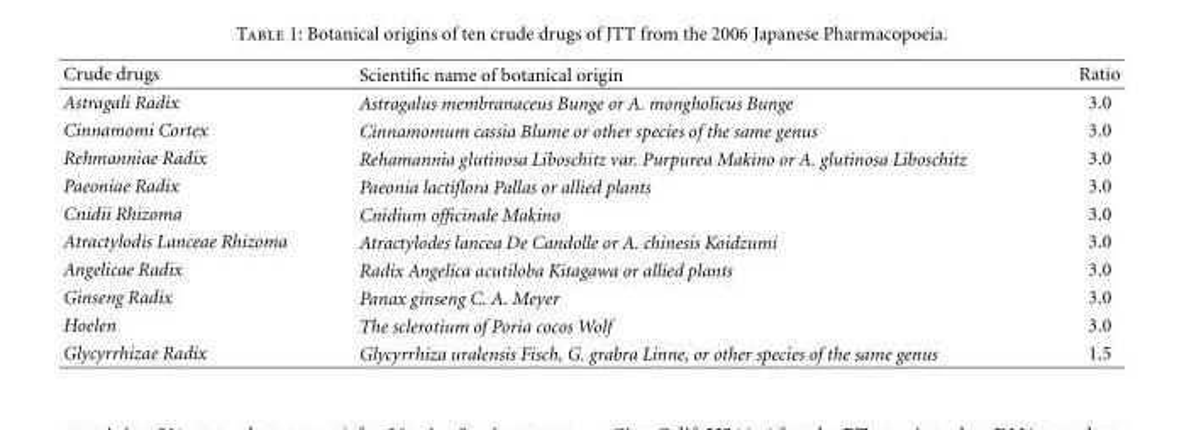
<table><thead><tr><td>Crude drugs</td><td>Scientific name of botanical origin</td><td>Ratio</td></tr></thead><tbody><tr><td>Astragali Radix</td><td>Astragalus membranaceus Bunge or A. mongholicus Bunge</td><td>3.0</td></tr><tr><td>Cinnamomi Cortex</td><td>Cinnamomum cassia Blume or other species of the same genus</td><td>3.0</td></tr><tr><td>Rehmanniae Radix</td><td>Rehamannia glutinosa Liboschitz var. Purpurea Makino or A. glutinosa Liboschitz</td><td>3.0</td></tr><tr><td>Paeoniae Radix</td><td>Paeonia lactiflora Pallas or allied plants</td><td>3.0</td></tr><tr><td>Cnidii Rhizoma</td><td>Cnidium officinale Makino</td><td>3.0</td></tr><tr><td>Atractylodis Lanceae Rhizoma</td><td>Atractylodes lancea De Candolle or A. chinesis Koidzumi</td><td>3.0</td></tr><tr><td>Angelicae Radix</td><td>Radix Angelica acutiloba Kitagawa or allied plants</td><td>3.0</td></tr><tr><td>Ginseng Radix</td><td>Panax ginseng C. A. Meyer</td><td>3.0</td></tr><tr><td>Hoelen</td><td>The sclerotium of Poria cocos Wolf</td><td>3.0</td></tr><tr><td>Glycyrrhizae Radix</td><td>Glycyrrhiza uralensis Fisch, G. grabra Linne, or other species of the same genus</td><td>1.5</td></tr></tbody></table>